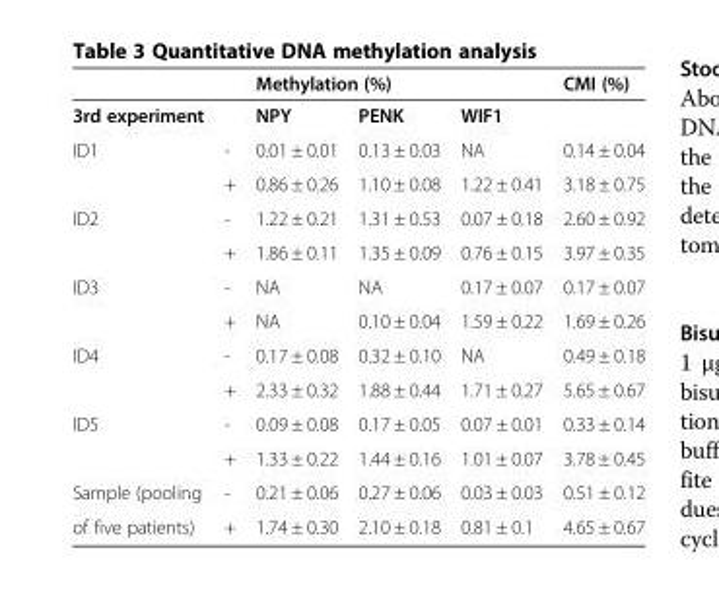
<table><thead><tr><td rowspan="2">3rd experiment</td><td rowspan="2"></td><td colspan="3">Methylation (%)</td><td rowspan="2">CMI (%)</td></tr><tr><td>NPY</td><td>PENK</td><td>WIF1</td></tr></thead><tbody><tr><td rowspan="2">ID1</td><td>-</td><td>0.01 ± 0.01</td><td>0.13 ± 0.03</td><td>NA</td><td>0.14 ± 0.04</td></tr><tr><td>+</td><td>0.86 ± 0.26</td><td>1.10 ± 0.08</td><td>1.22 ± 0.41</td><td>3.18 ± 0.75</td></tr><tr><td rowspan="2">ID2</td><td>-</td><td>1.22 ± 0.21</td><td>1.31 ± 0.53</td><td>0.07 ± 0.18</td><td>2.60 ± 0.92</td></tr><tr><td>+</td><td>1.86 ± 0.11</td><td>1.35 ± 0.09</td><td>0.76 ± 0.15</td><td>3.97 ± 0.35</td></tr><tr><td rowspan="2">ID3</td><td>-</td><td>NA</td><td>NA</td><td>0.17 ± 0.07</td><td>0.17 ± 0.07</td></tr><tr><td>+</td><td>NA</td><td>0.10 ± 0.04</td><td>1.59 ± 0.22</td><td>1.69 ± 0.26</td></tr><tr><td rowspan="2">ID4</td><td>-</td><td>0.17 ± 0.08</td><td>0.32 ± 0.10</td><td>NA</td><td>0.49 ± 0.18</td></tr><tr><td>+</td><td>2.33 ± 0.32</td><td>1.88 ± 0.44</td><td>1.71 ± 0.27</td><td>5.65 ± 0.67</td></tr><tr><td rowspan="2">ID5</td><td>-</td><td>0.09 ± 0.08</td><td>0.17 ± 0.05</td><td>0.07 ± 0.01</td><td>0.33 ± 0.14</td></tr><tr><td>+</td><td>1.33 ± 0.22</td><td>1.44 ± 0.16</td><td>1.01 ± 0.07</td><td>3.78 ± 0.45</td></tr><tr><td>Sample (pooling</td><td>-</td><td>0.21 ± 0.06</td><td>0.27 ± 0.06</td><td>0.03 ± 0.03</td><td>0.51 ± 0.12</td></tr><tr><td>of five patients)</td><td>+</td><td>1.74 ± 0.30</td><td>2.10 ± 0.18</td><td>0.81 ± 0.1</td><td>4.65 ± 0.67</td></tr></tbody></table>